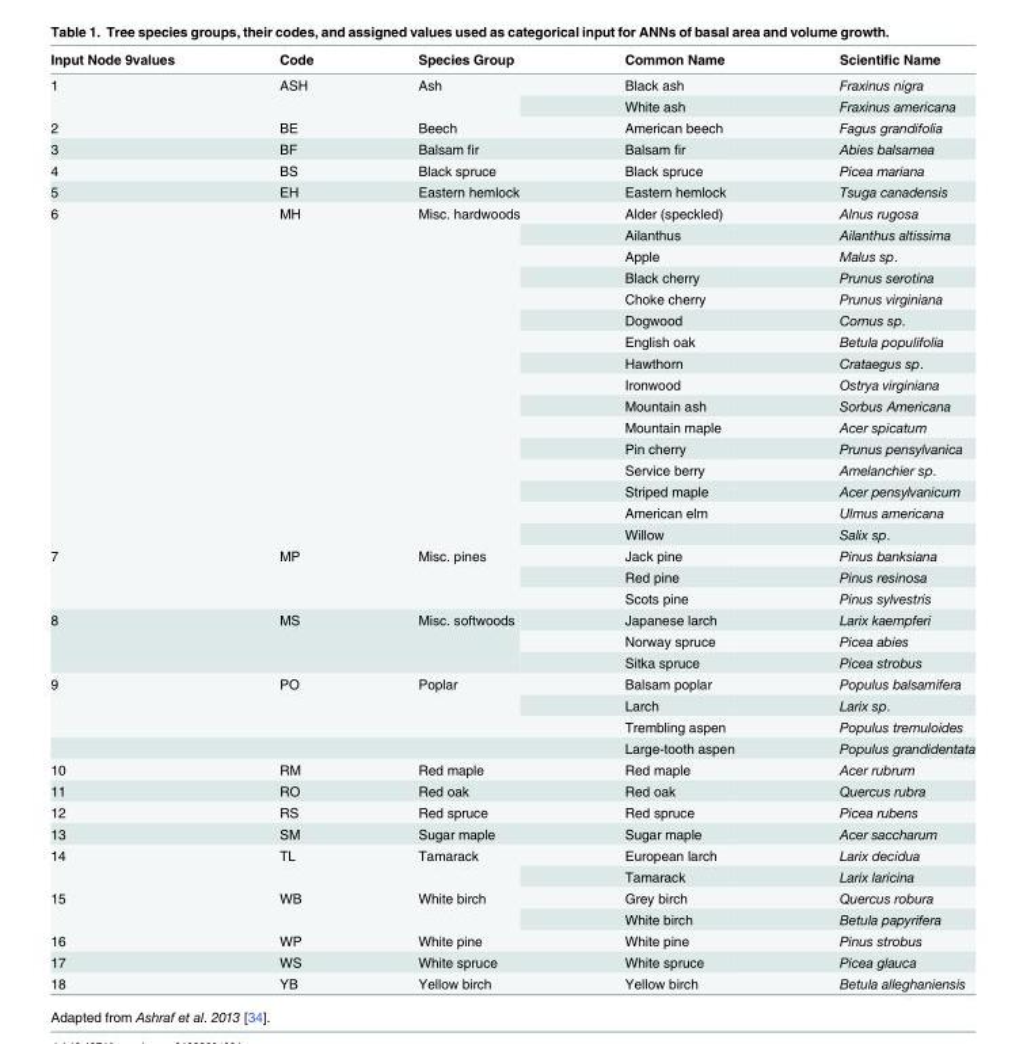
<table><thead><tr><td>Input Node 9values</td><td>Code</td><td>Species Group</td><td>Common Name</td><td>Scientific Name</td></tr></thead><tbody><tr><td rowspan="2">1</td><td rowspan="2">ASH</td><td rowspan="2">Ash</td><td>Black ash</td><td>Fraxinus nigra</td></tr><tr><td>White ash</td><td>Fraxinus americana</td></tr><tr><td>2</td><td>BE</td><td>Beech</td><td>American beech</td><td>Fagus grandifolia</td></tr><tr><td>3</td><td>BF</td><td>Balsam fir</td><td>Balsam fir</td><td>Abies balsamea</td></tr><tr><td>4</td><td>BS</td><td>Black spruce</td><td>Black spruce</td><td>Picea mariana</td></tr><tr><td>5</td><td>EH</td><td>Eastern hemlock</td><td>Eastern hemlock</td><td>Tsuga canadensis</td></tr><tr><td rowspan="16">6</td><td rowspan="16">MH</td><td rowspan="16">Misc. hardwoods</td><td>Alder (speckled)</td><td>Alnus rugosa</td></tr><tr><td>Ailanthus</td><td>Ailanthus altissima</td></tr><tr><td>Apple</td><td>Malus sp.</td></tr><tr><td>Black cherry</td><td>Prunus serotina</td></tr><tr><td>Choke cherry</td><td>Prunus virginiana</td></tr><tr><td>Dogwood</td><td>Cornus sp.</td></tr><tr><td>English oak</td><td>Betula populifolia</td></tr><tr><td>Hawthorn</td><td>Crataegus sp.</td></tr><tr><td>Ironwood</td><td>Ostrya virginiana</td></tr><tr><td>Mountain ash</td><td>Sorbus Americana</td></tr><tr><td>Mountain maple</td><td>Acer spicatum</td></tr><tr><td>Pin cherry</td><td>Prunus pensylvanica</td></tr><tr><td>Service berry</td><td>Amelanchier sp.</td></tr><tr><td>Striped maple</td><td>Acer pensylvanicum</td></tr><tr><td>American elm</td><td>Ulmus americana</td></tr><tr><td>Willow</td><td>Salix sp.</td></tr><tr><td rowspan="3">7</td><td rowspan="3">MP</td><td rowspan="3">Misc. pines</td><td>Jack pine</td><td>Pinus banksiana</td></tr><tr><td>Red pine</td><td>Pinus resinosa</td></tr><tr><td>Scots pine</td><td>Pinus sylvestris</td></tr><tr><td rowspan="3">8</td><td rowspan="3">MS</td><td rowspan="3">Misc. softwoods</td><td>Japanese larch</td><td>Larix kaempferi</td></tr><tr><td>Norway spruce</td><td>Picea abies</td></tr><tr><td>Sitka spruce</td><td>Picea strobus</td></tr><tr><td rowspan="4">9</td><td rowspan="3">PO</td><td rowspan="3">Poplar</td><td>Balsam poplar</td><td>Populus balsamifera</td></tr><tr><td>Larch</td><td>Larix sp.</td></tr><tr><td>Trembling aspen</td><td>Populus tremuloides</td></tr><tr><td></td><td></td><td>Large-tooth aspen</td><td>Populus grandidentata</td></tr><tr><td>10</td><td>RM</td><td>Red maple</td><td>Red maple</td><td>Acer rubrum</td></tr><tr><td>11</td><td>RO</td><td>Red oak</td><td>Red oak</td><td>Quercus rubra</td></tr><tr><td>12</td><td>RS</td><td>Red spruce</td><td>Red spruce</td><td>Picea rubens</td></tr><tr><td>13</td><td>SM</td><td>Sugar maple</td><td>Sugar maple</td><td>Acer saccharum</td></tr><tr><td rowspan="2">14</td><td rowspan="2">TL</td><td rowspan="2">Tamarack</td><td>European larch</td><td>Larix decidua</td></tr><tr><td>Tamarack</td><td>Larix laricina</td></tr><tr><td rowspan="2">15</td><td rowspan="2">WB</td><td rowspan="2">White birch</td><td>Grey birch</td><td>Quercus robura</td></tr><tr><td>White birch</td><td>Betula papyrifera</td></tr><tr><td>16</td><td>WP</td><td>White pine</td><td>White pine</td><td>Pinus strobus</td></tr><tr><td>17</td><td>WS</td><td>White spruce</td><td>White spruce</td><td>Picea glauca</td></tr><tr><td>18</td><td>YB</td><td>Yellow birch</td><td>Yellow birch</td><td>Betula alleghaniensis</td></tr></tbody></table>